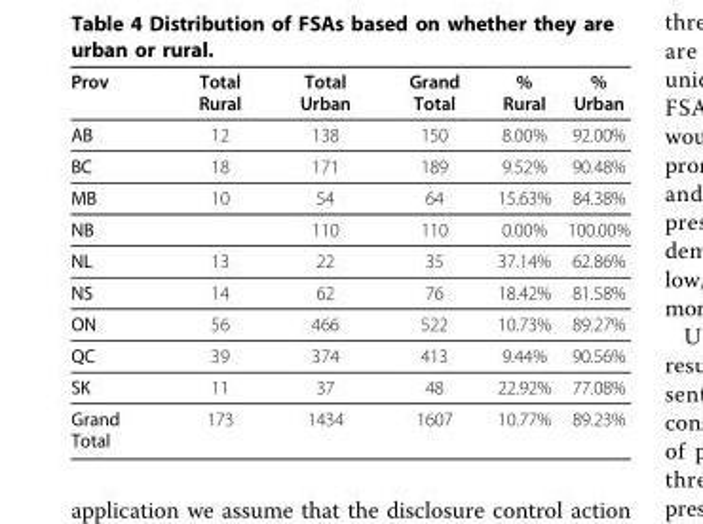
<table><thead><tr><td>Prov</td><td>Total Rural</td><td>Total Urban</td><td>Grand Total</td><td>% Rural</td><td>% Urban</td></tr></thead><tbody><tr><td>AB</td><td>12</td><td>138</td><td>150</td><td>8.00%</td><td>92.00%</td></tr><tr><td>BC</td><td>18</td><td>171</td><td>189</td><td>9.52%</td><td>90.48%</td></tr><tr><td>MB</td><td>10</td><td>54</td><td>64</td><td>15.63%</td><td>84.38%</td></tr><tr><td>NB</td><td></td><td>110</td><td>110</td><td>0.00%</td><td>100.00%</td></tr><tr><td>NL</td><td>13</td><td>22</td><td>35</td><td>37.14%</td><td>62.86%</td></tr><tr><td>NS</td><td>14</td><td>62</td><td>76</td><td>18.42%</td><td>81.58%</td></tr><tr><td>ON</td><td>56</td><td>466</td><td>522</td><td>10.73%</td><td>89.27%</td></tr><tr><td>QC</td><td>39</td><td>374</td><td>413</td><td>9.44%</td><td>90.56%</td></tr><tr><td>SK</td><td>11</td><td>37</td><td>48</td><td>22.92%</td><td>77.08%</td></tr><tr><td>Grand Total</td><td>173</td><td>1434</td><td>1607</td><td>10.77%</td><td>89.23%</td></tr></tbody></table>